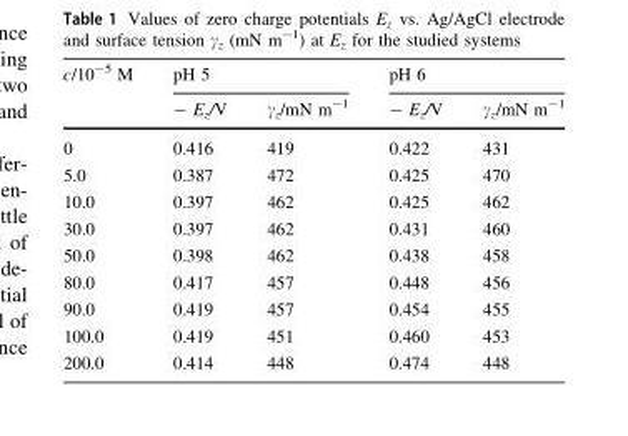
<table><thead><tr><td rowspan="2">c/10<sup>-5</sup> M</td><td colspan="2">pH 5</td><td colspan="2">pH 6</td></tr><tr><td>- E<sub>z</sub>/V</td><td>γ<sub>z</sub>/mN m<sup>-1</sup></td><td>- E<sub>z</sub>/V</td><td>γ<sub>z</sub>/mN m<sup>-1</sup></td></tr></thead><tbody><tr><td>0</td><td>0.416</td><td>419</td><td>0.422</td><td>431</td></tr><tr><td>5.0</td><td>0.387</td><td>472</td><td>0.425</td><td>470</td></tr><tr><td>10.0</td><td>0.397</td><td>462</td><td>0.425</td><td>462</td></tr><tr><td>30.0</td><td>0.397</td><td>462</td><td>0.431</td><td>460</td></tr><tr><td>50.0</td><td>0.398</td><td>462</td><td>0.438</td><td>458</td></tr><tr><td>80.0</td><td>0.417</td><td>457</td><td>0.448</td><td>456</td></tr><tr><td>90.0</td><td>0.419</td><td>457</td><td>0.454</td><td>455</td></tr><tr><td>100.0</td><td>0.419</td><td>451</td><td>0.460</td><td>453</td></tr><tr><td>200.0</td><td>0.414</td><td>448</td><td>0.474</td><td>448</td></tr></tbody></table>